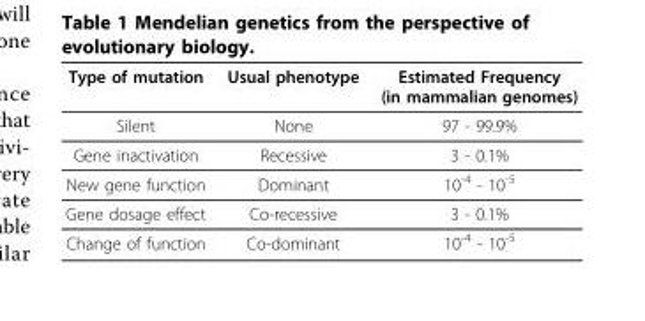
<table><thead><tr><td>Type of mutation</td><td>Usual phenotype</td><td>Estimated Frequency (in mammalian genomes)</td></tr></thead><tbody><tr><td>Silent</td><td>None</td><td>97 - 99.9%</td></tr><tr><td>Gene inactivation</td><td>Recessive</td><td>3 - 0.1%</td></tr><tr><td>New gene function</td><td>Dominant</td><td>10<sup>-4</sup> - 10<sup>-5</sup></td></tr><tr><td>Gene dosage effect</td><td>Co-recessive</td><td>3 - 0.1%</td></tr><tr><td>Change of function</td><td>Co-dominant</td><td>10<sup>-4</sup> - 10<sup>-5</sup></td></tr></tbody></table>